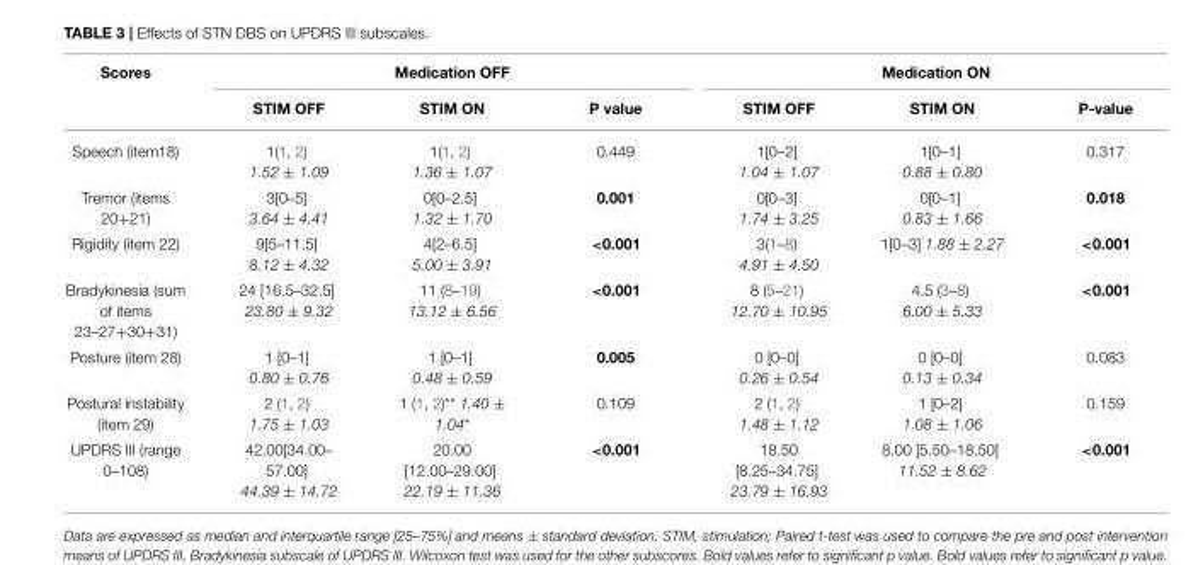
<table><thead><tr><td rowspan="2">Scores</td><td colspan="3">Medication OFF</td><td colspan="3">Medication ON</td></tr><tr><td>STIM OFF</td><td>STIM ON</td><td>P value</td><td>STIM OFF</td><td>STIM ON</td><td>P-value</td></tr></thead><tbody><tr><td>Speech (item18)</td><td>1(1, 2) 1.52 ± 1.09</td><td>1(1, 2) 1.36 ± 1.07</td><td>0.449</td><td>1[0–2] 1.04 ± 1.07</td><td>1[0–1] 0.88 ± 0.80</td><td>0.317</td></tr><tr><td>Tremor (items 20+21)</td><td>3[0–5] 3.64 ± 4.41</td><td>0[0–2.5] 1.32 ± 1.70</td><td>0.001</td><td>0[0–3] 1.74 ± 3.25</td><td>0[0–1] 0.83 ± 1.66</td><td>0.018</td></tr><tr><td>Rigidity (item 22)</td><td>9[5–11.5] 8.12 ± 4.32</td><td>4[2–6.5] 5.00 ± 3.91</td><td>&lt;0.001</td><td>3(1–8) 4.91 ± 4.50</td><td>1[0–3] 1.88 ± 2.27</td><td>&lt;0.001</td></tr><tr><td>Bradykinesia (sum of items 23–27+30+31)</td><td>24 [16.5–32.5] 23.80 ± 9.32</td><td>11 (8–19) 13.12 ± 6.56</td><td>&lt;0.001</td><td>8 (5–21) 12.70 ± 10.95</td><td>4.5 (3–8) 6.00 ± 5.33</td><td>&lt;0.001</td></tr><tr><td>Posture (item 28)</td><td>1 [0–1] 0.80 ± 0.76</td><td>1 [0–1] 0.48 ± 0.59</td><td>0.005</td><td>0 [0–0] 0.26 ± 0.54</td><td>0 [0–0] 0.13 ± 0.34</td><td>0.083</td></tr><tr><td>Postural instability (item 29)</td><td>2 (1, 2) 1.75 ± 1.03</td><td>1 (1, 2)** 1.40 ± 1.04*</td><td>0.109</td><td>2 (1, 2) 1.48 ± 1.12</td><td>1 [0–2] 1.08 ± 1.06</td><td>0.159</td></tr><tr><td>UPDRS III (range 0–108)</td><td>42.00[34.00– 57.00] 44.39 ± 14.72</td><td>20.00 [12.00–29.00] 22.19 ± 11.36</td><td>&lt;0.001</td><td>18.50 [8.25–34.75] 23.79 ± 16.93</td><td>8.00 [5.50–18.50] 11.52 ± 8.62</td><td>&lt;0.001</td></tr></tbody></table>